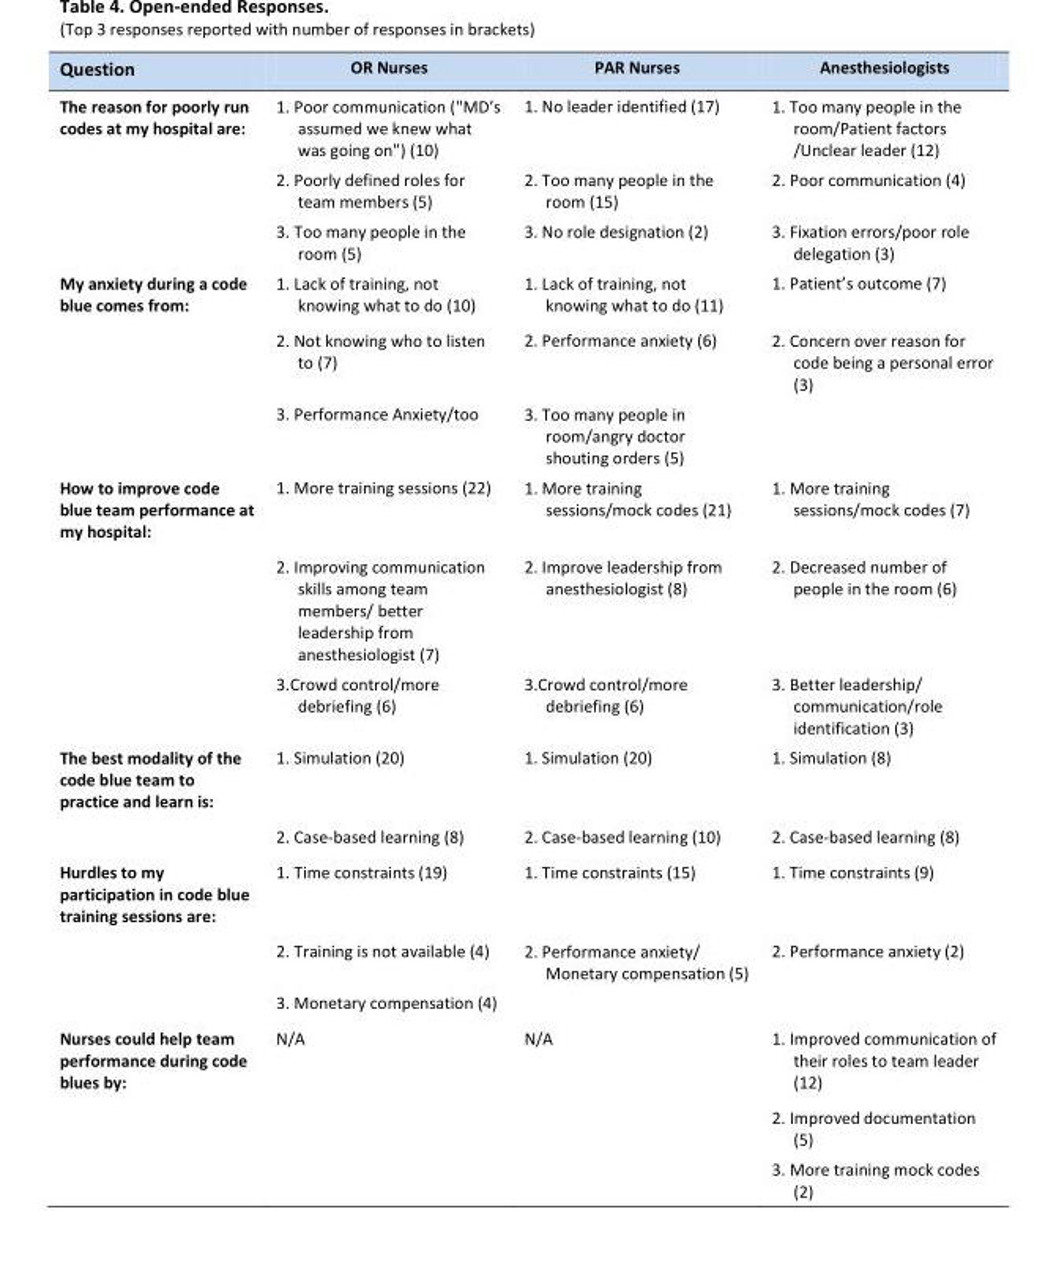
<table><thead><tr><td>Question</td><td>OR Nurses</td><td>PAR Nurses</td><td>Anesthesiologists</td></tr></thead><tbody><tr><td rowspan="3">The reason for poorly run codes at my hospital are:</td><td>1. Poor communication (&quot;MD’s assumed we knew what was going on&quot;) (10)</td><td>1. No leader identified (17)</td><td>1. Too many people in the room/Patient factors /Unclear leader (12)</td></tr><tr><td>2. Poorly defined roles for team members (5)</td><td>2. Too many people in the room (15)</td><td>2. Poor communication (4)</td></tr><tr><td>3. Too many people in the room (5)</td><td>3. No role designation (2)</td><td>3. Fixation errors/poor role delegation (3)</td></tr><tr><td rowspan="3">My anxiety during a code blue comes from:</td><td>1. Lack of training, not knowing what to do (10)</td><td>1. Lack of training, not knowing what to do (11)</td><td>1. Patient’s outcome (7)</td></tr><tr><td>2. Not knowing who to listen to (7)</td><td>2. Performance anxiety (6)</td><td>2. Concern over reason for code being a personal error (3)</td></tr><tr><td>3. Performance Anxiety/too</td><td>3. Too many people in room/angry doctor shouting orders (5)</td><td></td></tr><tr><td rowspan="3">How to improve code blue team performance at my hospital:</td><td>1. More training sessions (22)</td><td>1. More training sessions/mock codes (21)</td><td>1. More training sessions/mock codes (7)</td></tr><tr><td>2. Improving communication skills among team members/ better leadership from anesthesiologist (7)</td><td>2. Improve leadership from anesthesiologist (8)</td><td>2. Decreased number of people in the room (6)</td></tr><tr><td>3.Crowd control/more debriefing (6)</td><td>3.Crowd control/more debriefing (6)</td><td>3. Better leadership/ communication/role identification (3)</td></tr><tr><td rowspan="2">The best modality of the code blue team to practice and learn is:</td><td>1. Simulation (20)</td><td>1. Simulation (20)</td><td>1. Simulation (8)</td></tr><tr><td>2. Case-based learning (8)</td><td>2. Case-based learning (10)</td><td>2. Case-based learning (8)</td></tr><tr><td rowspan="3">Hurdles to my participation in code blue training sessions are:</td><td>1. Time constraints (19)</td><td>1. Time constraints (15)</td><td>1. Time constraints (9)</td></tr><tr><td>2. Training is not available (4)</td><td>2. Performance anxiety/ Monetary compensation (5)</td><td>2. Performance anxiety (2)</td></tr><tr><td>3. Monetary compensation (4)</td><td></td><td></td></tr><tr><td rowspan="3">Nurses could help team performance during code blues by:</td><td>N/A</td><td>N/A</td><td>1. Improved communication of their roles to team leader (12)</td></tr><tr><td></td><td></td><td>2. Improved documentation (5)</td></tr><tr><td></td><td></td><td>3. More training mock codes (2)</td></tr></tbody></table>